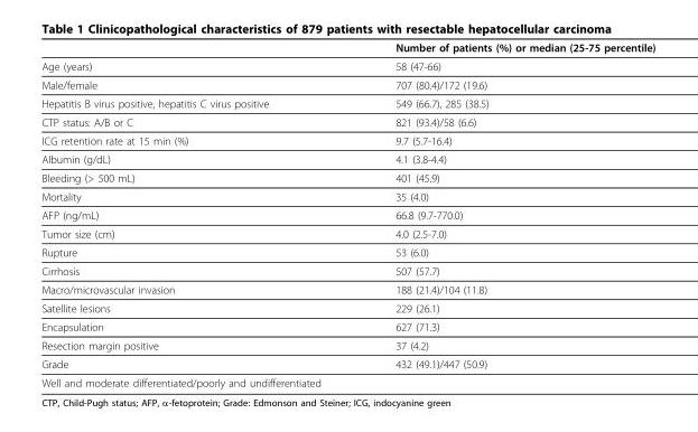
<table><thead><tr><td></td><td>Number of patients (%) or median (25-75 percentile)</td></tr></thead><tbody><tr><td>Age (years)</td><td>58 (47-66)</td></tr><tr><td>Male/female</td><td>707 (80.4)/172 (19.6)</td></tr><tr><td>Hepatitis B virus positive, hepatitis C virus positive</td><td>549 (66.7), 285 (38.5)</td></tr><tr><td>CTP status: A/B or C</td><td>821 (93.4)/58 (6.6)</td></tr><tr><td>ICG retention rate at 15 min (%)</td><td>9.7 (5.7-16.4)</td></tr><tr><td>Albumin (g/dL)</td><td>4.1 (3.8-4.4)</td></tr><tr><td>Bleeding (&gt; 500 mL)</td><td>401 (45.9)</td></tr><tr><td>Mortality</td><td>35 (4.0)</td></tr><tr><td>AFP (ng/mL)</td><td>66.8 (9.7-770.0)</td></tr><tr><td>Tumor size (cm)</td><td>4.0 (2.5-7.0)</td></tr><tr><td>Rupture</td><td>53 (6.0)</td></tr><tr><td>Cirrhosis</td><td>507 (57.7)</td></tr><tr><td>Macro/microvascular invasion</td><td>188 (21.4)/104 (11.8)</td></tr><tr><td>Satellite lesions</td><td>229 (26.1)</td></tr><tr><td>Encapsulation</td><td>627 (71.3)</td></tr><tr><td>Resection margin positive</td><td>37 (4.2)</td></tr><tr><td>Grade</td><td>432 (49.1)/447 (50.9)</td></tr><tr><td>Well and moderate differentiated/poorly and undifferentiated</td><td></td></tr></tbody></table>